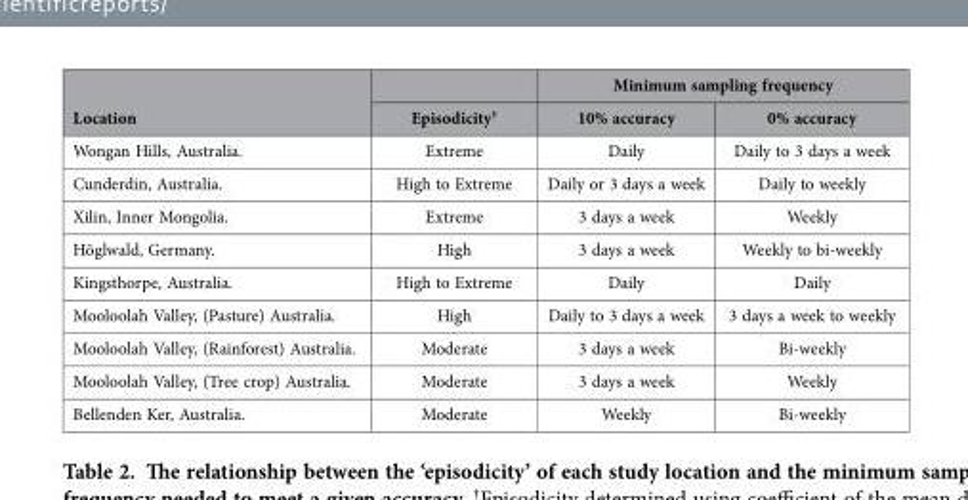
<table><thead><tr><td rowspan="2">Location</td><td rowspan="2">Episodicity†</td><td colspan="2">Minimum sampling frequency</td></tr><tr><td>10% accuracy</td><td>0% accuracy</td></tr></thead><tbody><tr><td>Wongan Hills, Australia.</td><td>Extreme</td><td>Daily</td><td>Daily to 3 days a week</td></tr><tr><td>Cunderdin, Australia.</td><td>High to Extreme</td><td>Daily or 3 days a week</td><td>Daily to weekly</td></tr><tr><td>Xilin, Inner Mongolia.</td><td>Extreme</td><td>3 days a week</td><td>Weekly</td></tr><tr><td>Höglwald, Germany.</td><td>High</td><td>3 days a week</td><td>Weekly to bi-weekly</td></tr><tr><td>Kingsthorpe, Australia.</td><td>High to Extreme</td><td>Daily</td><td>Daily</td></tr><tr><td>Mooloolah Valley, (Pasture) Australia.</td><td>High</td><td>Daily to 3 days a week</td><td>3 days a week to weekly</td></tr><tr><td>Mooloolah Valley, (Rainforest) Australia.</td><td>Moderate</td><td>3 days a week</td><td>Bi-weekly</td></tr><tr><td>Mooloolah Valley, (Tree crop) Australia.</td><td>Moderate</td><td>3 days a week</td><td>Weekly</td></tr><tr><td>Bellenden Ker, Australia.</td><td>Moderate</td><td>Weekly</td><td>Bi-weekly</td></tr></tbody></table>